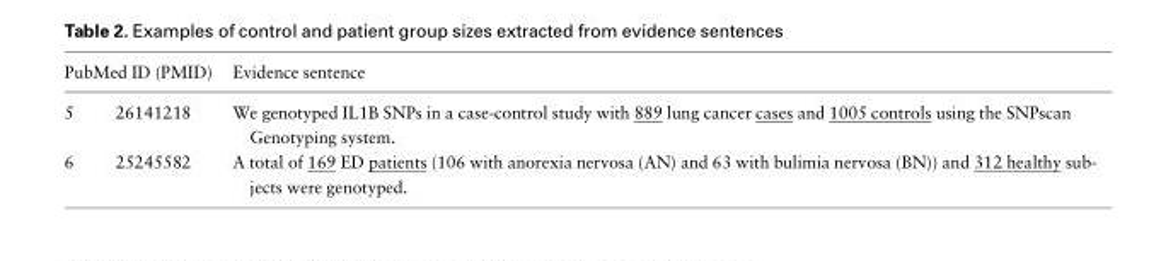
<table><thead><tr><td colspan="2">PubMed ID (PMID)</td><td rowspan="2">Evidence sentence We genotyped IL1B SNPs in a case-control study with 889 lung cancer cases and 1005 controls using the SNPscan Genotyping system.</td></tr><tr><td>5</td><td>26141218</td></tr></thead><tbody><tr><td>6</td><td>25245582</td><td>A total of 169 ED patients (106 with anorexia nervosa (AN) and 63 with bulimia nervosa (BN)) and 312 healthy sub- jects were genotyped.</td></tr></tbody></table>